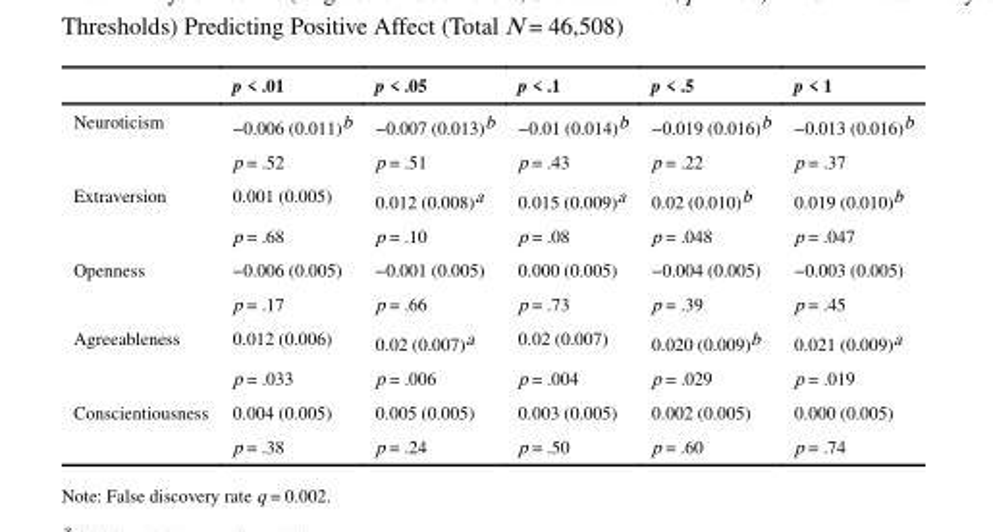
<table><thead><tr><td></td><td>p &lt; .01</td><td>p &lt; .05</td><td>p &lt; .1</td><td>p &lt; .5</td><td>p &lt; 1</td></tr></thead><tbody><tr><td rowspan="2">Neuroticism</td><td>−0.006 (0.011)<sup>b</sup></td><td>−0.007 (0.013)<sup>b</sup></td><td>−0.01 (0.014)<sup>b</sup></td><td>−0.019 (0.016)<sup>b</sup></td><td>−0.013 (0.016)<sup>b</sup></td></tr><tr><td>p = .52</td><td>p = .51</td><td>p = .43</td><td>p = .22</td><td>p = .37</td></tr><tr><td rowspan="2">Extraversion</td><td>0.001 (0.005)</td><td>0.012 (0.008)<sup>a</sup></td><td>0.015 (0.009)<sup>a</sup></td><td>0.02 (0.010)<sup>b</sup></td><td>0.019 (0.010)<sup>b</sup></td></tr><tr><td>p = .68</td><td>p = .10</td><td>p = .08</td><td>p = .048</td><td>p = .047</td></tr><tr><td rowspan="2">Openness</td><td>−0.006 (0.005)</td><td>−0.001 (0.005)</td><td>0.000 (0.005)</td><td>−0.004 (0.005)</td><td>−0.003 (0.005)</td></tr><tr><td>p = .17</td><td>p = .66</td><td>p = .73</td><td>p = .39</td><td>p = .45</td></tr><tr><td rowspan="2">Agreeableness</td><td>0.012 (0.006)</td><td>0.02 (0.007)<sup>a</sup></td><td>0.02 (0.007)</td><td>0.020 (0.009)<sup>b</sup></td><td>0.021 (0.009)<sup>a</sup></td></tr><tr><td>p = .033</td><td>p = .006</td><td>p = .004</td><td>p = .029</td><td>p = .019</td></tr><tr><td rowspan="2">Conscientiousness</td><td>0.004 (0.005)</td><td>0.005 (0.005)</td><td>0.003 (0.005)</td><td>0.002 (0.005)</td><td>0.000 (0.005)</td></tr><tr><td>p = .38</td><td>p = .24</td><td>p = .50</td><td>p = .60</td><td>p = .74</td></tr></tbody></table>